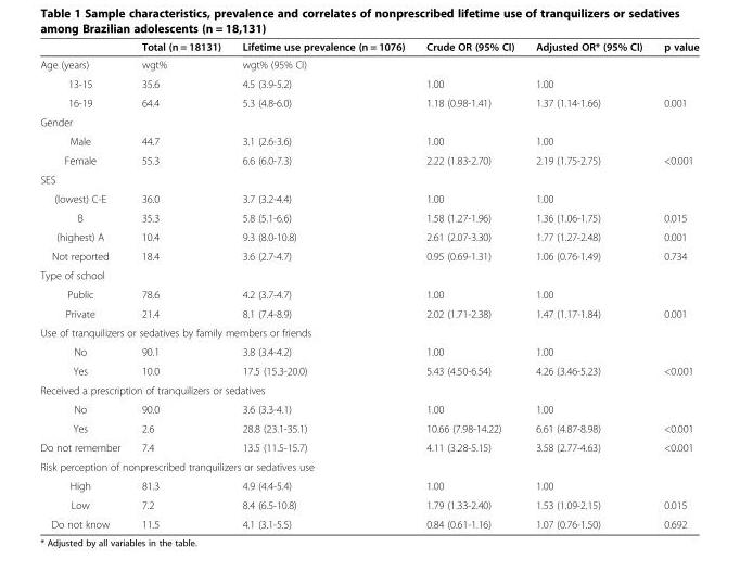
<table><thead><tr><td></td><td>Total (n = 18131)</td><td>Lifetime use prevalence (n = 1076)</td><td>Crude OR (95% CI)</td><td>Adjusted OR* (95% CI)</td><td>p value</td></tr></thead><tbody><tr><td>Age (years)</td><td>wgt%</td><td>wgt% (95% CI)</td><td></td><td></td><td></td></tr><tr><td>13-15</td><td>35.6</td><td>4.5 (3.9-5.2)</td><td>1.00</td><td>1.00</td><td></td></tr><tr><td>16-19</td><td>64.4</td><td>5.3 (4.8-6.0)</td><td>1.18 (0.98-1.41)</td><td>1.37 (1.14-1.66)</td><td>0.001</td></tr><tr><td colspan="6">Gender</td></tr><tr><td>Male</td><td>44.7</td><td>3.1 (2.6-3.6)</td><td>1.00</td><td>1.00</td><td></td></tr><tr><td>Female</td><td>55.3</td><td>6.6 (6.0-7.3)</td><td>2.22 (1.83-2.70)</td><td>2.19 (1.75-2.75)</td><td>&lt;0.001</td></tr><tr><td colspan="6">SES</td></tr><tr><td>(lowest) C-E</td><td>36.0</td><td>3.7 (3.2-4.4)</td><td>1.00</td><td>1.00</td><td></td></tr><tr><td>B</td><td>35.3</td><td>5.8 (5.1-6.6)</td><td>1.58 (1.27-1.96)</td><td>1.36 (1.06-1.75)</td><td>0.015</td></tr><tr><td>(highest) A</td><td>10.4</td><td>9.3 (8.0-10.8)</td><td>2.61 (2.07-3.30)</td><td>1.77 (1.27-2.48)</td><td>0.001</td></tr><tr><td>Not reported</td><td>18.4</td><td>3.6 (2.7-4.7)</td><td>0.95 (0.69-1.31)</td><td>1.06 (0.76-1.49)</td><td>0.734</td></tr><tr><td colspan="6">Type of school</td></tr><tr><td>Public</td><td>78.6</td><td>4.2 (3.7-4.7)</td><td>1.00</td><td>1.00</td><td></td></tr><tr><td>Private</td><td>21.4</td><td>8.1 (7.4-8.9)</td><td>2.02 (1.71-2.38)</td><td>1.47 (1.17-1.84)</td><td>0.001</td></tr><tr><td colspan="6">Use of tranquilizers or sedatives by family members or friends</td></tr><tr><td>No</td><td>90.1</td><td>3.8 (3.4-4.2)</td><td>1.00</td><td>1.00</td><td></td></tr><tr><td>Yes</td><td>10.0</td><td>17.5 (15.3-20.0)</td><td>5.43 (4.50-6.54)</td><td>4.26 (3.46-5.23)</td><td>&lt;0.001</td></tr><tr><td colspan="6">Received a prescription of tranquilizers or sedatives</td></tr><tr><td>No</td><td>90.0</td><td>3.6 (3.3-4.1)</td><td>1.00</td><td>1.00</td><td></td></tr><tr><td>Yes</td><td>2.6</td><td>28.8 (23.1-35.1)</td><td>10.66 (7.98-14.22)</td><td>6.61 (4.87-8.98)</td><td>&lt;0.001</td></tr><tr><td>Do not remember</td><td>7.4</td><td>13.5 (11.5-15.7)</td><td>4.11 (3.28-5.15)</td><td>3.58 (2.77-4.63)</td><td>&lt;0.001</td></tr><tr><td colspan="6">Risk perception of nonprescribed tranquilizers or sedatives use</td></tr><tr><td>High</td><td>81.3</td><td>4.9 (4.4-5.4)</td><td>1.00</td><td>1.00</td><td></td></tr><tr><td>Low</td><td>7.2</td><td>8.4 (6.5-10.8)</td><td>1.79 (1.33-2.40)</td><td>1.53 (1.09-2.15)</td><td>0.015</td></tr><tr><td>Do not know</td><td>11.5</td><td>4.1 (3.1-5.5)</td><td>0.84 (0.61-1.16)</td><td>1.07 (0.76-1.50)</td><td>0.692</td></tr></tbody></table>